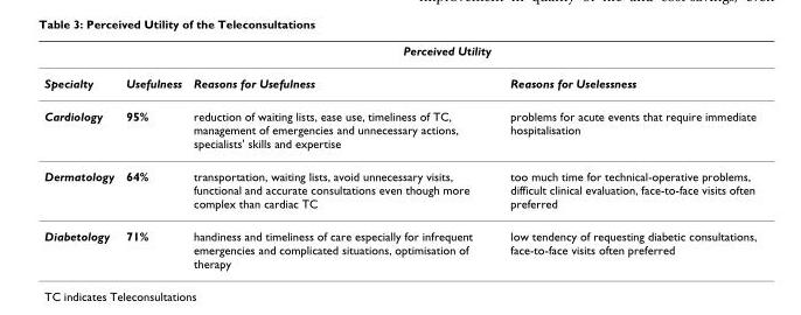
<table><thead><tr><td rowspan="2">Specialty</td><td colspan="3">Perceived Utility</td></tr><tr><td>Usefulness</td><td>Reasons for Usefulness</td><td>Reasons for Uselessness</td></tr></thead><tbody><tr><td>Cardiology</td><td>95%</td><td>reduction of waiting lists, ease use, timeliness of TC, management of emergencies and unnecessary actions, specialists&#x27; skills and expertise</td><td>problems for acute events that require immediate hospitalisation</td></tr><tr><td>Dermatology</td><td>64%</td><td>transportation, waiting lists, avoid unnecessary visits, functional and accurate consultations even though more complex than cardiac TC</td><td>too much time for technical-operative problems, difficult clinical evaluation, face-to-face visits often preferred</td></tr><tr><td>Diabetology</td><td>71%</td><td>handiness and timeliness of care especially for infrequent emergencies and complicated situations, optimisation of therapy</td><td>low tendency of requesting diabetic consultations, face-to-face visits often preferred</td></tr></tbody></table>